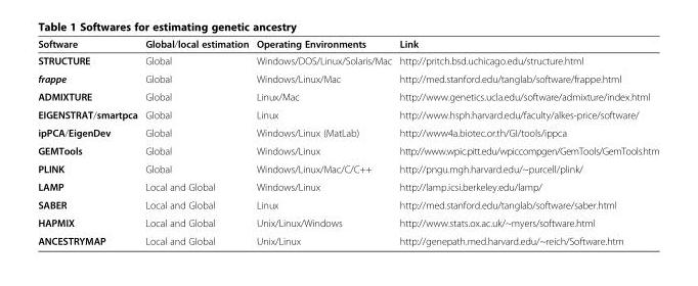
<table><thead><tr><td>Software</td><td>Global/local estimation</td><td>Operating Environments</td><td>Link</td></tr></thead><tbody><tr><td>STRUCTURE</td><td>Global</td><td>Windows/DOS/Linux/Solaris/Mac</td><td>http://pritch.bsd.uchicago.edu/structure.html</td></tr><tr><td>frappe</td><td>Global</td><td>Windows/Linux/Mac</td><td>http://med.stanford.edu/tanglab/software/frappe.html</td></tr><tr><td>ADMIXTURE</td><td>Global</td><td>Linux/Mac</td><td>http://www.genetics.ucla.edu/software/admixture/index.html</td></tr><tr><td>EIGENSTRAT/smartpca</td><td>Global</td><td>Linux</td><td>http://www.hsph.harvard.edu/faculty/alkes-price/software/</td></tr><tr><td>ipPCA/EigenDev</td><td>Global</td><td>Windows/Linux (MatLab)</td><td>http://www4a.biotec.or.th/GI/tools/ippca</td></tr><tr><td>GEMTools</td><td>Global</td><td>Windows/Linux</td><td>http://www.wpic.pitt.edu/wpiccompgen/GemTools/GemTools.htm</td></tr><tr><td>PLINK</td><td>Global</td><td>Windows/Linux/Mac/C/C++</td><td>http://pngu.mgh.harvard.edu/~purcell/plink/</td></tr><tr><td>LAMP</td><td>Local and Global</td><td>Windows/Linux</td><td>http://lamp.icsi.berkeley.edu/lamp/</td></tr><tr><td>SABER</td><td>Local and Global</td><td>Linux</td><td>http://med.stanford.edu/tanglab/software/saber.html</td></tr><tr><td>HAPMIX</td><td>Local and Global</td><td>Unix/Linux/Windows</td><td>http://www.stats.ox.ac.uk/~myers/software.html</td></tr><tr><td>ANCESTRYMAP</td><td>Local and Global</td><td>Unix/Linux</td><td>http://genepath.med.harvard.edu/~reich/Software.htm</td></tr></tbody></table>